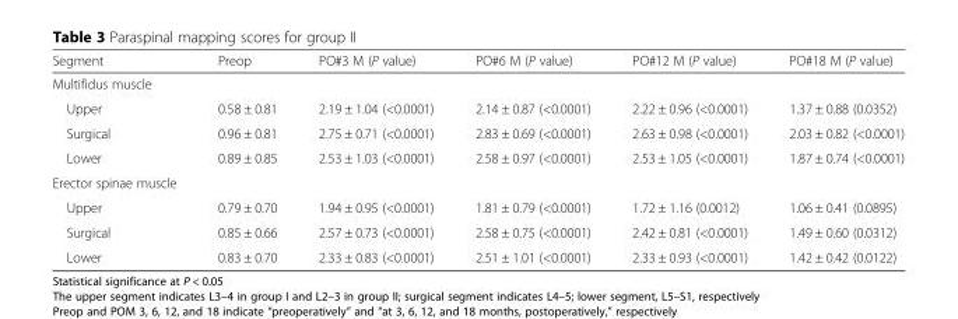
<table><thead><tr><td>Segment</td><td>Preop</td><td>PO#3 M (P value)</td><td>PO#6 M (P value)</td><td>PO#12 M (P value)</td><td>PO#18 M (P value)</td></tr></thead><tbody><tr><td colspan="6">Multifidus muscle</td></tr><tr><td>Upper</td><td>0.58 ± 0.81</td><td>2.19 ± 1.04 (&lt;0.0001)</td><td>2.14 ± 0.87 (&lt;0.0001)</td><td>2.22 ± 0.96 (&lt;0.0001)</td><td>1.37 ± 0.88 (0.0352)</td></tr><tr><td>Surgical</td><td>0.96 ± 0.81</td><td>2.75 ± 0.71 (&lt;0.0001)</td><td>2.83 ± 0.69 (&lt;0.0001)</td><td>2.63 ± 0.98 (&lt;0.0001)</td><td>2.03 ± 0.82 (&lt;0.0001)</td></tr><tr><td>Lower</td><td>0.89 ± 0.85</td><td>2.53 ± 1.03 (&lt;0.0001)</td><td>2.58 ± 0.97 (&lt;0.0001)</td><td>2.53 ± 1.05 (&lt;0.0001)</td><td>1.87 ± 0.74 (&lt;0.0001)</td></tr><tr><td colspan="6">Erector spinae muscle</td></tr><tr><td>Upper</td><td>0.79 ± 0.70</td><td>1.94 ± 0.95 (&lt;0.0001)</td><td>1.81 ± 0.79 (&lt;0.0001)</td><td>1.72 ± 1.16 (0.0012)</td><td>1.06 ± 0.41 (0.0895)</td></tr><tr><td>Surgical</td><td>0.85 ± 0.66</td><td>2.57 ± 0.73 (&lt;0.0001)</td><td>2.58 ± 0.75 (&lt;0.0001)</td><td>2.42 ± 0.81 (&lt;0.0001)</td><td>1.49 ± 0.60 (0.0312)</td></tr><tr><td>Lower</td><td>0.83 ± 0.70</td><td>2.33 ± 0.83 (&lt;0.0001)</td><td>2.51 ± 1.01 (&lt;0.0001)</td><td>2.33 ± 0.93 (&lt;0.0001)</td><td>1.42 ± 0.42 (0.0122)</td></tr></tbody></table>